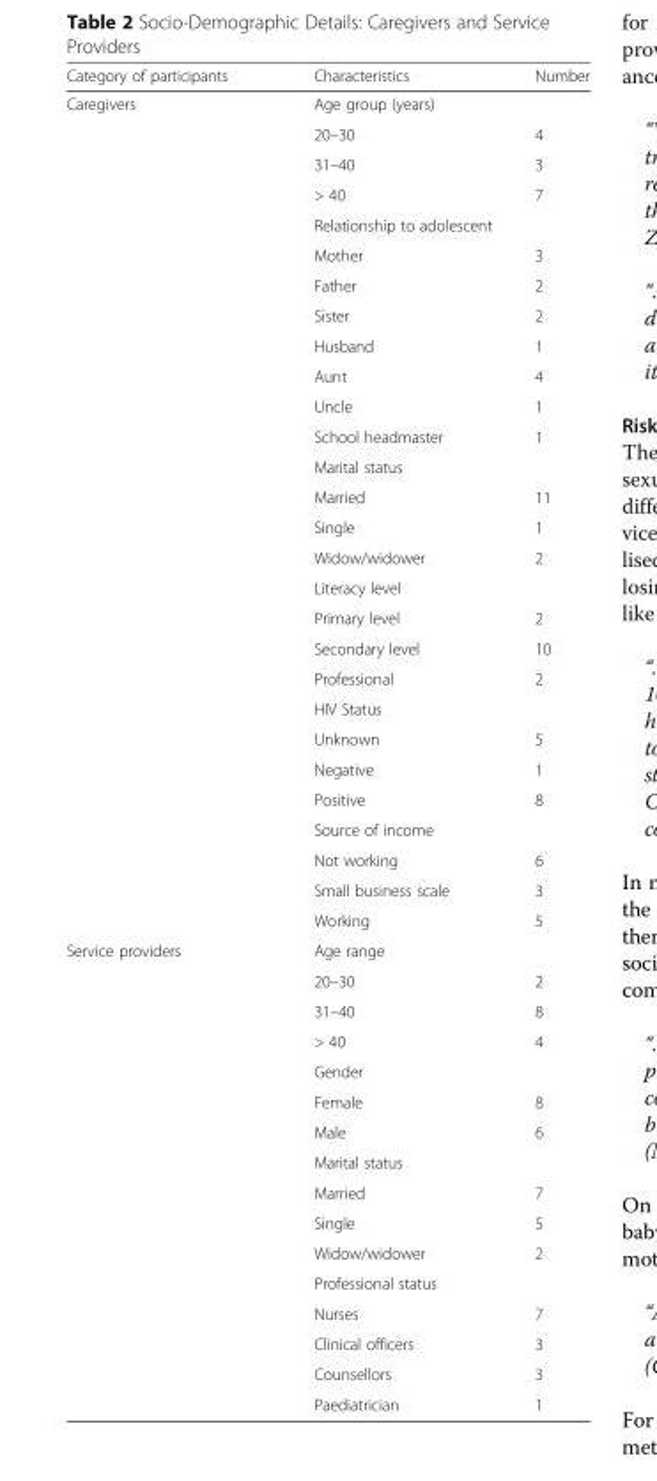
<table><thead><tr><td>Category of participants</td><td>Characteristics</td><td>Number</td></tr></thead><tbody><tr><td rowspan="28">Caregivers</td><td colspan="2">Age group (years)</td></tr><tr><td>20–30</td><td>4</td></tr><tr><td>31–40</td><td>3</td></tr><tr><td>&gt; 40</td><td>7</td></tr><tr><td colspan="2">Relationship to adolescent</td></tr><tr><td>Mother</td><td>3</td></tr><tr><td>Father</td><td>2</td></tr><tr><td>Sister</td><td>2</td></tr><tr><td>Husband</td><td>1</td></tr><tr><td>Aunt</td><td>4</td></tr><tr><td>Uncle</td><td>1</td></tr><tr><td>School headmaster</td><td>1</td></tr><tr><td colspan="2">Marital status</td></tr><tr><td>Married</td><td>11</td></tr><tr><td>Single</td><td>1</td></tr><tr><td>Widow/widower</td><td>2</td></tr><tr><td>Literacy level</td><td></td></tr><tr><td>Primary level</td><td>2</td></tr><tr><td>Secondary level</td><td>10</td></tr><tr><td>Professional</td><td>2</td></tr><tr><td colspan="2">HIV Status</td></tr><tr><td>Unknown</td><td>5</td></tr><tr><td>Negative</td><td>1</td></tr><tr><td>Positive</td><td>8</td></tr><tr><td colspan="2">Source of income</td></tr><tr><td>Not working</td><td>6</td></tr><tr><td>Small business scale</td><td>3</td></tr><tr><td>Working</td><td>5</td></tr><tr><td rowspan="16">Service providers</td><td colspan="2">Age range</td></tr><tr><td>20–30</td><td>2</td></tr><tr><td>31–40</td><td>8</td></tr><tr><td>&gt; 40</td><td>4</td></tr><tr><td colspan="2">Gender</td></tr><tr><td>Female</td><td>8</td></tr><tr><td>Male</td><td>6</td></tr><tr><td colspan="2">Marital status</td></tr><tr><td>Married</td><td>7</td></tr><tr><td>Single</td><td>5</td></tr><tr><td>Widow/widower</td><td>2</td></tr><tr><td colspan="2">Professional status</td></tr><tr><td>Nurses</td><td>7</td></tr><tr><td>Clinical officers</td><td>3</td></tr><tr><td>Counsellors</td><td>3</td></tr><tr><td>Paediatrician</td><td>1</td></tr></tbody></table>